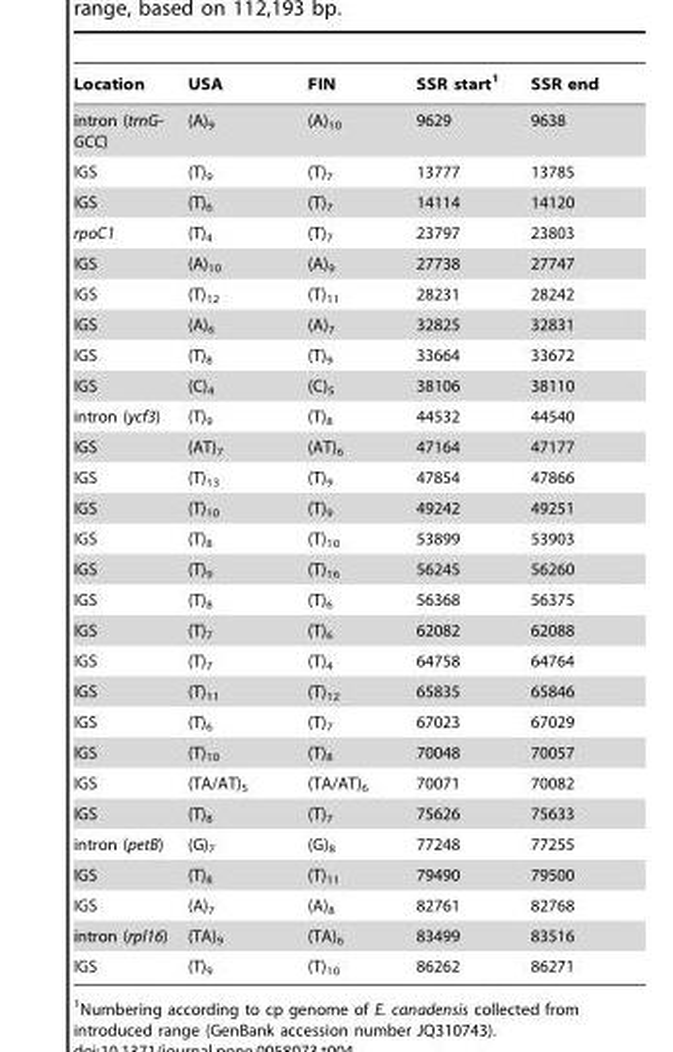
<table><thead><tr><td>Location</td><td>USA</td><td>FIN</td><td>SSR start<sup>1</sup></td><td>SSR end</td></tr></thead><tbody><tr><td>intron (trnG- GCC)</td><td>(A)<sub>9</sub></td><td>(A)<sub>10</sub></td><td>9629</td><td>9638</td></tr><tr><td>IGS</td><td>(T)<sub>9</sub></td><td>(T)<sub>7</sub></td><td>13777</td><td>13785</td></tr><tr><td>IGS</td><td>(T)<sub>6</sub></td><td>(T)<sub>7</sub></td><td>14114</td><td>14120</td></tr><tr><td>rpoC1</td><td>(T)<sub>4</sub></td><td>(T)<sub>7</sub></td><td>23797</td><td>23803</td></tr><tr><td>IGS</td><td>(A)<sub>10</sub></td><td>(A)<sub>9</sub></td><td>27738</td><td>27747</td></tr><tr><td>IGS</td><td>(T)<sub>12</sub></td><td>(T)<sub>11</sub></td><td>28231</td><td>28242</td></tr><tr><td>IGS</td><td>(A)<sub>6</sub></td><td>(A)<sub>7</sub></td><td>32825</td><td>32831</td></tr><tr><td>IGS</td><td>(T)<sub>8</sub></td><td>(T)<sub>9</sub></td><td>33664</td><td>33672</td></tr><tr><td>IGS</td><td>(C)<sub>4</sub></td><td>(C)<sub>5</sub></td><td>38106</td><td>38110</td></tr><tr><td>intron (ycf3)</td><td>(T)<sub>9</sub></td><td>(T)<sub>8</sub></td><td>44532</td><td>44540</td></tr><tr><td>IGS</td><td>(AT)<sub>7</sub></td><td>(AT)<sub>6</sub></td><td>47164</td><td>47177</td></tr><tr><td>IGS</td><td>(T)<sub>13</sub></td><td>(T)<sub>9</sub></td><td>47854</td><td>47866</td></tr><tr><td>IGS</td><td>(T)<sub>10</sub></td><td>(T)<sub>9</sub></td><td>49242</td><td>49251</td></tr><tr><td>IGS</td><td>(T)<sub>8</sub></td><td>(T)<sub>10</sub></td><td>53899</td><td>53903</td></tr><tr><td>IGS</td><td>(T)<sub>9</sub></td><td>(T)<sub>16</sub></td><td>56245</td><td>56260</td></tr><tr><td>IGS</td><td>(T)<sub>8</sub></td><td>(T)<sub>6</sub></td><td>56368</td><td>56375</td></tr><tr><td>IGS</td><td>(T)<sub>7</sub></td><td>(T)<sub>6</sub></td><td>62082</td><td>62088</td></tr><tr><td>IGS</td><td>(T)<sub>7</sub></td><td>(T)<sub>4</sub></td><td>64758</td><td>64764</td></tr><tr><td>IGS</td><td>(T)<sub>11</sub></td><td>(T)<sub>12</sub></td><td>65835</td><td>65846</td></tr><tr><td>IGS</td><td>(T)<sub>6</sub></td><td>(T)<sub>7</sub></td><td>67023</td><td>67029</td></tr><tr><td>IGS</td><td>(T)<sub>10</sub></td><td>(T)<sub>8</sub></td><td>70048</td><td>70057</td></tr><tr><td>IGS</td><td>(TA/AT)<sub>5</sub></td><td>(TA/AT)<sub>6</sub></td><td>70071</td><td>70082</td></tr><tr><td>IGS</td><td>(T)<sub>8</sub></td><td>(T)<sub>7</sub></td><td>75626</td><td>75633</td></tr><tr><td>intron (petB)</td><td>(G)<sub>7</sub></td><td>(G)<sub>8</sub></td><td>77248</td><td>77255</td></tr><tr><td>IGS</td><td>(T)<sub>8</sub></td><td>(T)<sub>11</sub></td><td>79490</td><td>79500</td></tr><tr><td>IGS</td><td>(A)<sub>7</sub></td><td>(A)<sub>8</sub></td><td>82761</td><td>82768</td></tr><tr><td>intron (rpl16)</td><td>(TA)<sub>9</sub></td><td>(TA)<sub>6</sub></td><td>83499</td><td>83516</td></tr><tr><td>IGS</td><td>(T)<sub>9</sub></td><td>(T)<sub>10</sub></td><td>86262</td><td>86271</td></tr></tbody></table>